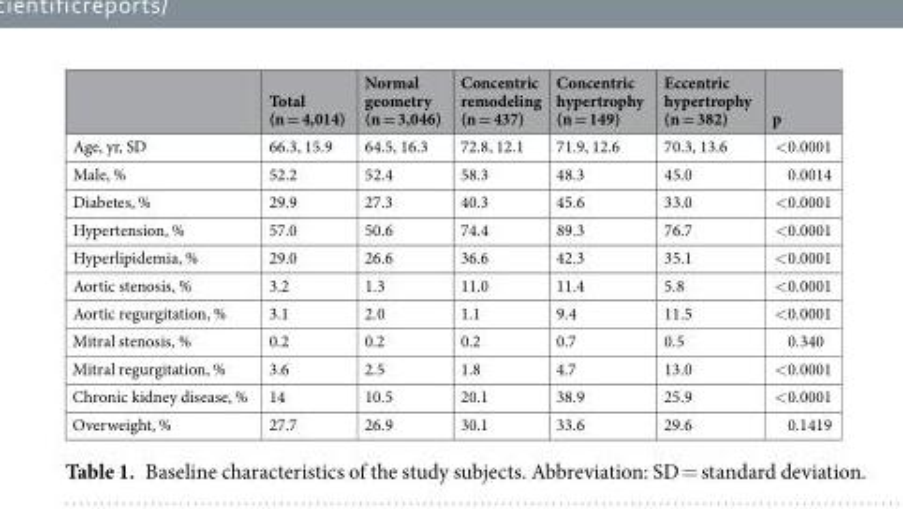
<table><thead><tr><td></td><td>Total (n = 4,014)</td><td>Normal geometry (n = 3,046)</td><td>Concentric remodeling (n = 437)</td><td>Concentric hypertrophy (n = 149)</td><td>Eccentric hypertrophy (n = 382)</td><td>p</td></tr></thead><tbody><tr><td>Age, yr, SD</td><td>66.3, 15.9</td><td>64.5, 16.3</td><td>72.8, 12.1</td><td>71.9, 12.6</td><td>70.3, 13.6</td><td>&lt;0.0001</td></tr><tr><td>Male, %</td><td>52.2</td><td>52.4</td><td>58.3</td><td>48.3</td><td>45.0</td><td>0.0014</td></tr><tr><td>Diabetes, %</td><td>29.9</td><td>27.3</td><td>40.3</td><td>45.6</td><td>33.0</td><td>&lt;0.0001</td></tr><tr><td>Hypertension, %</td><td>57.0</td><td>50.6</td><td>74.4</td><td>89.3</td><td>76.7</td><td>&lt;0.0001</td></tr><tr><td>Hyperlipidemia, %</td><td>29.0</td><td>26.6</td><td>36.6</td><td>42.3</td><td>35.1</td><td>&lt;0.0001</td></tr><tr><td>Aortic stenosis, %</td><td>3.2</td><td>1.3</td><td>11.0</td><td>11.4</td><td>5.8</td><td>&lt;0.0001</td></tr><tr><td>Aortic regurgitation, %</td><td>3.1</td><td>2.0</td><td>1.1</td><td>9.4</td><td>11.5</td><td>&lt;0.0001</td></tr><tr><td>Mitral stenosis, %</td><td>0.2</td><td>0.2</td><td>0.2</td><td>0.7</td><td>0.5</td><td>0.340</td></tr><tr><td>Mitral regurgitation, %</td><td>3.6</td><td>2.5</td><td>1.8</td><td>4.7</td><td>13.0</td><td>&lt;0.0001</td></tr><tr><td>Chronic kidney disease, %</td><td>14</td><td>10.5</td><td>20.1</td><td>38.9</td><td>25.9</td><td>&lt;0.0001</td></tr><tr><td>Overweight, %</td><td>27.7</td><td>26.9</td><td>30.1</td><td>33.6</td><td>29.6</td><td>0.1419</td></tr></tbody></table>